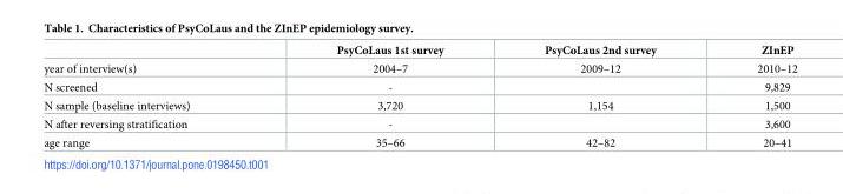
<table><thead><tr><td></td><td>PsyCoLaus 1st survey</td><td>PsyCoLaus 2nd survey</td><td>ZInEP</td></tr></thead><tbody><tr><td>year of interview(s)</td><td>2004–7</td><td>2009–12</td><td>2010–12</td></tr><tr><td>N screened</td><td>-</td><td></td><td>9,829</td></tr><tr><td>N sample (baseline interviews)</td><td>3,720</td><td>1,154</td><td>1,500</td></tr><tr><td>N after reversing stratification</td><td>-</td><td></td><td>3,600</td></tr><tr><td>age range</td><td>35–66</td><td>42–82</td><td>20–41</td></tr></tbody></table>